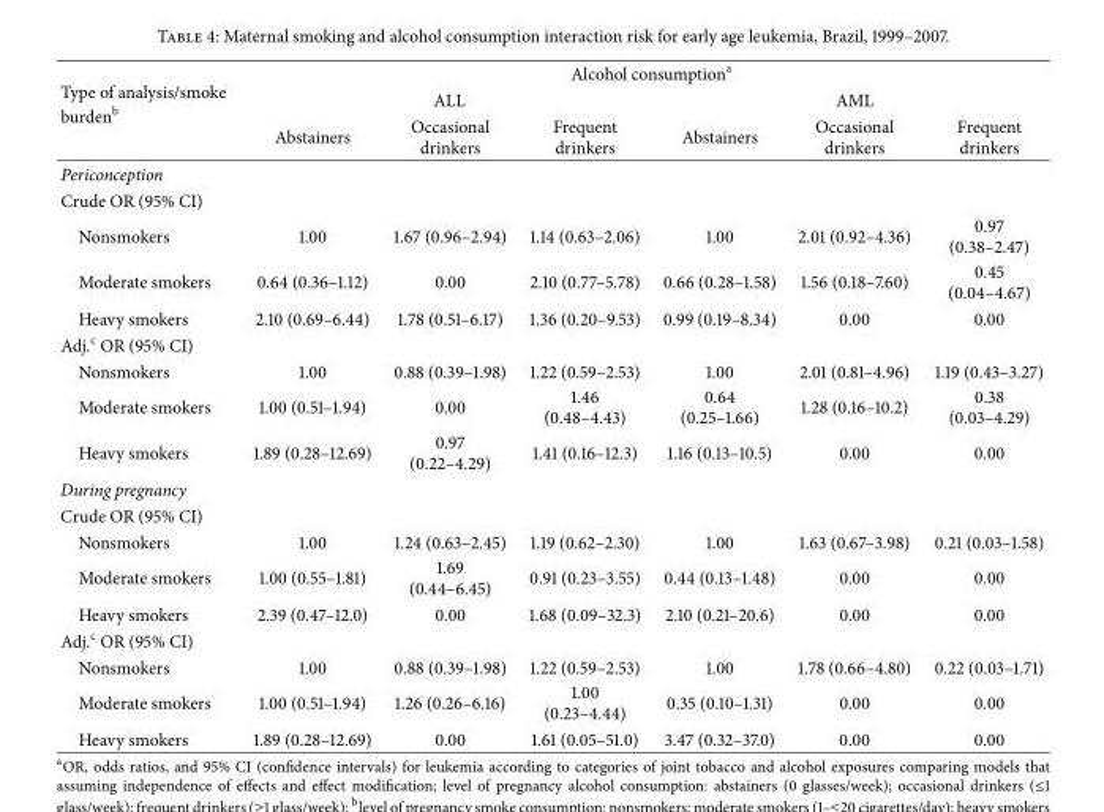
<table><thead><tr><td rowspan="3">Type of analysis/smoke burden<sup>b</sup></td><td colspan="6">Alcohol consumption<sup>a</sup></td></tr><tr><td colspan="3">ALL</td><td colspan="3">AML</td></tr><tr><td>Abstainers</td><td>Occasional drinkers</td><td>Frequent drinkers</td><td>Abstainers</td><td>Occasional drinkers</td><td>Frequent drinkers</td></tr></thead><tbody><tr><td colspan="7">Periconception</td></tr><tr><td colspan="7">Crude OR (95% CI)</td></tr><tr><td>Nonsmokers</td><td>1.00</td><td>1.67 (0.96–2.94)</td><td>1.14 (0.63–2.06)</td><td>1.00</td><td>2.01 (0.92–4.36)</td><td>0.97 (0.38–2.47)</td></tr><tr><td>Moderate smokers</td><td>0.64 (0.36–1.12)</td><td>0.00</td><td>2.10 (0.77–5.78)</td><td>0.66 (0.28–1.58)</td><td>1.56 (0.18–7.60)</td><td>0.45 (0.04–4.67)</td></tr><tr><td>Heavy smokers</td><td>2.10 (0.69–6.44)</td><td>1.78 (0.51–6.17)</td><td>1.36 (0.20–9.53)</td><td>0.99 (0.19–8.34)</td><td>0.00</td><td>0.00</td></tr><tr><td colspan="7">Adj.<sup>c</sup> OR (95% CI)</td></tr><tr><td>Nonsmokers</td><td>1.00</td><td>0.88 (0.39–1.98)</td><td>1.22 (0.59–2.53)</td><td>1.00</td><td>2.01 (0.81–4.96)</td><td>1.19 (0.43–3.27)</td></tr><tr><td>Moderate smokers</td><td>1.00 (0.51–1.94)</td><td>0.00</td><td>1.46 (0.48–4.43)</td><td>0.64 (0.25–1.66)</td><td>1.28 (0.16–10.2)</td><td>0.38 (0.03–4.29)</td></tr><tr><td>Heavy smokers</td><td>1.89 (0.28–12.69)</td><td>0.97 (0.22–4.29)</td><td>1.41 (0.16–12.3)</td><td>1.16 (0.13–10.5)</td><td>0.00</td><td>0.00</td></tr><tr><td colspan="7">During pregnancy</td></tr><tr><td colspan="7">Crude OR (95% CI)</td></tr><tr><td>Nonsmokers</td><td>1.00</td><td>1.24 (0.63–2.45)</td><td>1.19 (0.62–2.30)</td><td>1.00</td><td>1.63 (0.67–3.98)</td><td>0.21 (0.03–1.58)</td></tr><tr><td>Moderate smokers</td><td>1.00 (0.55–1.81)</td><td>1.69 (0.44–6.45)</td><td>0.91 (0.23–3.55)</td><td>0.44 (0.13–1.48)</td><td>0.00</td><td>0.00</td></tr><tr><td>Heavy smokers</td><td>2.39 (0.47–12.0)</td><td>0.00</td><td>1.68 (0.09–32.3)</td><td>2.10 (0.21–20.6)</td><td>0.00</td><td>0.00</td></tr><tr><td colspan="7">Adj.<sup>c</sup> OR (95% CI)</td></tr><tr><td>Nonsmokers</td><td>1.00</td><td>0.88 (0.39–1.98)</td><td>1.22 (0.59–2.53)</td><td>1.00</td><td>1.78 (0.66–4.80)</td><td>0.22 (0.03–1.71)</td></tr><tr><td>Moderate smokers</td><td>1.00 (0.51–1.94)</td><td>1.26 (0.26–6.16)</td><td>1.00 (0.23–4.44)</td><td>0.35 (0.10–1.31)</td><td>0.00</td><td>0.00</td></tr><tr><td>Heavy smokers</td><td>1.89 (0.28–12.69)</td><td>0.00</td><td>1.61 (0.05–51.0)</td><td>3.47 (0.32–37.0)</td><td>0.00</td><td>0.00</td></tr></tbody></table>